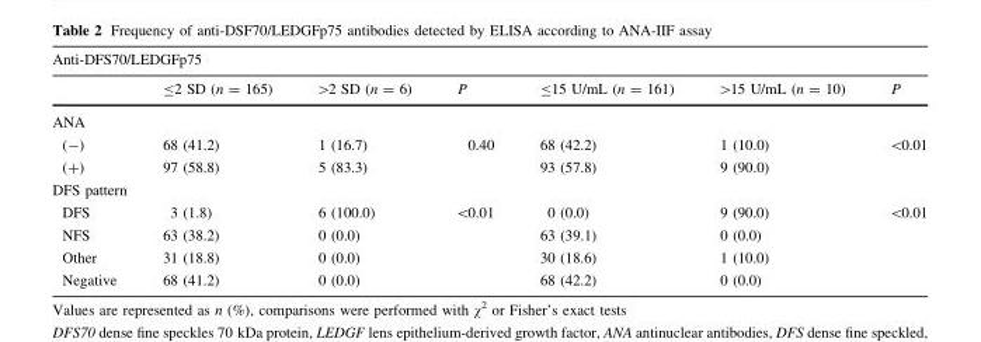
<table><thead><tr><td colspan="7">Anti-DFS70/LEDGFp75</td></tr><tr><td></td><td>≤2 SD (n = 165)</td><td>&gt;2 SD (n = 6)</td><td>P</td><td>≤15 U/mL (n = 161)</td><td>&gt;15 U/mL (n = 10)</td><td>P</td></tr></thead><tbody><tr><td colspan="7">ANA</td></tr><tr><td>(-)</td><td>68 (41.2)</td><td>1 (16.7)</td><td rowspan="2">0.40</td><td>68 (42.2)</td><td>1 (10.0)</td><td rowspan="2">&lt;0.01</td></tr><tr><td>(+)</td><td>97 (58.8)</td><td>5 (83.3)</td><td>93 (57.8)</td><td>9 (90.0)</td></tr><tr><td colspan="7">DFS pattern</td></tr><tr><td>DFS</td><td>3 (1.8)</td><td>6 (100.0)</td><td rowspan="4">&lt;0.01</td><td>0 (0.0)</td><td>9 (90.0)</td><td rowspan="4">&lt;0.01</td></tr><tr><td>NFS</td><td>63 (38.2)</td><td>0 (0.0)</td><td>63 (39.1)</td><td>0 (0.0)</td></tr><tr><td>Other</td><td>31 (18.8)</td><td>0 (0.0)</td><td>30 (18.6)</td><td>1 (10.0)</td></tr><tr><td>Negative</td><td>68 (41.2)</td><td>0 (0.0)</td><td>68 (42.2)</td><td>0 (0.0)</td></tr></tbody></table>